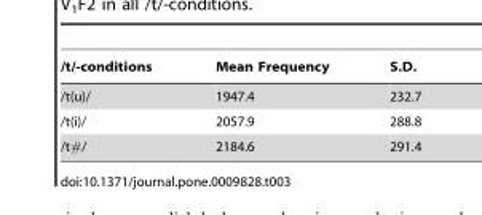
<table><thead><tr><td>/t/-conditions</td><td>Mean Frequency</td><td>S.D.</td></tr></thead><tbody><tr><td>/t(u)/</td><td>1947.4</td><td>232.7</td></tr><tr><td>/t(i)/</td><td>2057.9</td><td>288.8</td></tr><tr><td>/t#/</td><td>2184.6</td><td>291.4</td></tr></tbody></table>